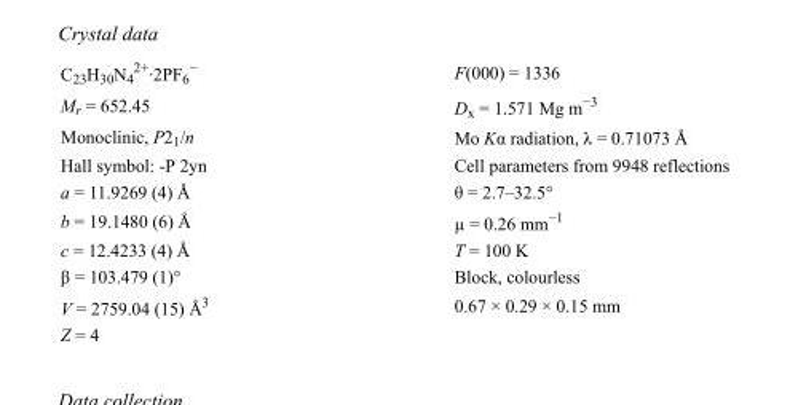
<table><tbody><tr><td>C<sub>23</sub>H<sub>30</sub>N<sub>4</sub> <sup>2+</sup>·2PF<sub>6</sub> <sup>−</sup></td><td>F(000) = 1336</td></tr><tr><td>M<sub>r</sub> = 652.45</td><td>D<sub>x</sub> = 1.571 Mg m<sup>−3</sup></td></tr><tr><td>Monoclinic, P2<sub>1</sub>/n</td><td>Mo Kα radiation, λ = 0.71073 Å</td></tr><tr><td>Hall symbol: -P 2yn</td><td>Cell parameters from 9948 reflections</td></tr><tr><td>a = 11.9269 (4) Å</td><td>θ = 2.7–32.5°</td></tr><tr><td>b = 19.1480 (6) Å</td><td>µ = 0.26 mm<sup>−1</sup></td></tr><tr><td>c = 12.4233 (4) Å</td><td>T = 100 K</td></tr><tr><td>β = 103.479 (1)°</td><td>Block, colourless</td></tr><tr><td>V = 2759.04 (15) Å<sup>3</sup></td><td>0.67 × 0.29 × 0.15 mm</td></tr><tr><td>Z = 4</td><td></td></tr></tbody></table>